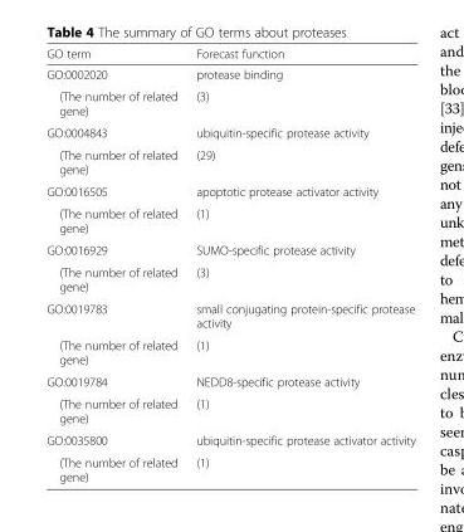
<table><thead><tr><td>GO term</td><td>Forecast function</td></tr></thead><tbody><tr><td>GO:0002020</td><td>protease binding</td></tr><tr><td>(The number of related gene)</td><td>(3)</td></tr><tr><td>GO:0004843</td><td>ubiquitin-specific protease activity</td></tr><tr><td>(The number of related gene)</td><td>(29)</td></tr><tr><td>GO:0016505</td><td>apoptotic protease activator activity</td></tr><tr><td>(The number of related gene)</td><td>(1)</td></tr><tr><td>GO:0016929</td><td>SUMO-specific protease activity</td></tr><tr><td>(The number of related gene)</td><td>(3)</td></tr><tr><td>GO:0019783</td><td>small conjugating protein-specific protease activity</td></tr><tr><td>(The number of related gene)</td><td>(1)</td></tr><tr><td>GO:0019784</td><td>NEDD8-specific protease activity</td></tr><tr><td>(The number of related gene)</td><td>(1)</td></tr><tr><td>GO:0035800</td><td>ubiquitin-specific protease activator activity</td></tr><tr><td>(The number of related gene)</td><td>(1)</td></tr></tbody></table>